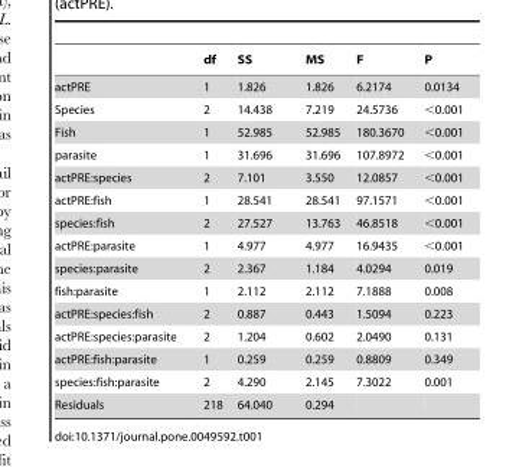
<table><thead><tr><td></td><td>df</td><td>SS</td><td>MS</td><td>F</td><td>P</td></tr></thead><tbody><tr><td>actPRE</td><td>1</td><td>1.826</td><td>1.826</td><td>6.2174</td><td>0.0134</td></tr><tr><td>Species</td><td>2</td><td>14.438</td><td>7.219</td><td>24.5736</td><td>&lt;0.001</td></tr><tr><td>Fish</td><td>1</td><td>52.985</td><td>52.985</td><td>180.3670</td><td>&lt;0.001</td></tr><tr><td>parasite</td><td>1</td><td>31.696</td><td>31.696</td><td>107.8972</td><td>&lt;0.001</td></tr><tr><td>actPRE:species</td><td>2</td><td>7.101</td><td>3.550</td><td>12.0857</td><td>&lt;0.001</td></tr><tr><td>actPRE:fish</td><td>1</td><td>28.541</td><td>28.541</td><td>97.1571</td><td>&lt;0.001</td></tr><tr><td>species:fish</td><td>2</td><td>27.527</td><td>13.763</td><td>46.8518</td><td>&lt;0.001</td></tr><tr><td>actPRE:parasite</td><td>1</td><td>4.977</td><td>4.977</td><td>16.9435</td><td>&lt;0.001</td></tr><tr><td>species:parasite</td><td>2</td><td>2.367</td><td>1.184</td><td>4.0294</td><td>0.019</td></tr><tr><td>fish:parasite</td><td>1</td><td>2.112</td><td>2.112</td><td>7.1888</td><td>0.008</td></tr><tr><td>actPRE:species:fish</td><td>2</td><td>0.887</td><td>0.443</td><td>1.5094</td><td>0.223</td></tr><tr><td>actPRE:species:parasite</td><td>2</td><td>1.204</td><td>0.602</td><td>2.0490</td><td>0.131</td></tr><tr><td>actPRE:fish:parasite</td><td>1</td><td>0.259</td><td>0.259</td><td>0.8809</td><td>0.349</td></tr><tr><td>species:fish:parasite</td><td>2</td><td>4.290</td><td>2.145</td><td>7.3022</td><td>0.001</td></tr><tr><td>Residuals</td><td>218</td><td>64.040</td><td>0.294</td><td></td><td></td></tr></tbody></table>